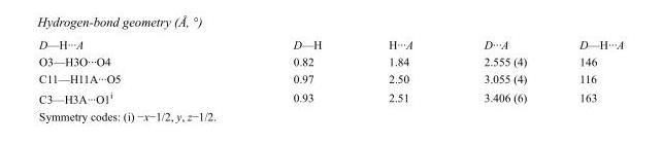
<table><tbody><tr><td>D—H···A</td><td>D—H</td><td>H···A</td><td>D···A</td><td>D—H···A</td></tr><tr><td>O3—H3O···O4</td><td>0.82</td><td>1.84</td><td>2.555 (4)</td><td>146</td></tr><tr><td>C11—H11A···O5</td><td>0.97</td><td>2.50</td><td>3.055 (4)</td><td>116</td></tr><tr><td>C3—H3A···O1<sup>i</sup></td><td>0.93</td><td>2.51</td><td>3.406 (6)</td><td>163</td></tr></tbody></table>